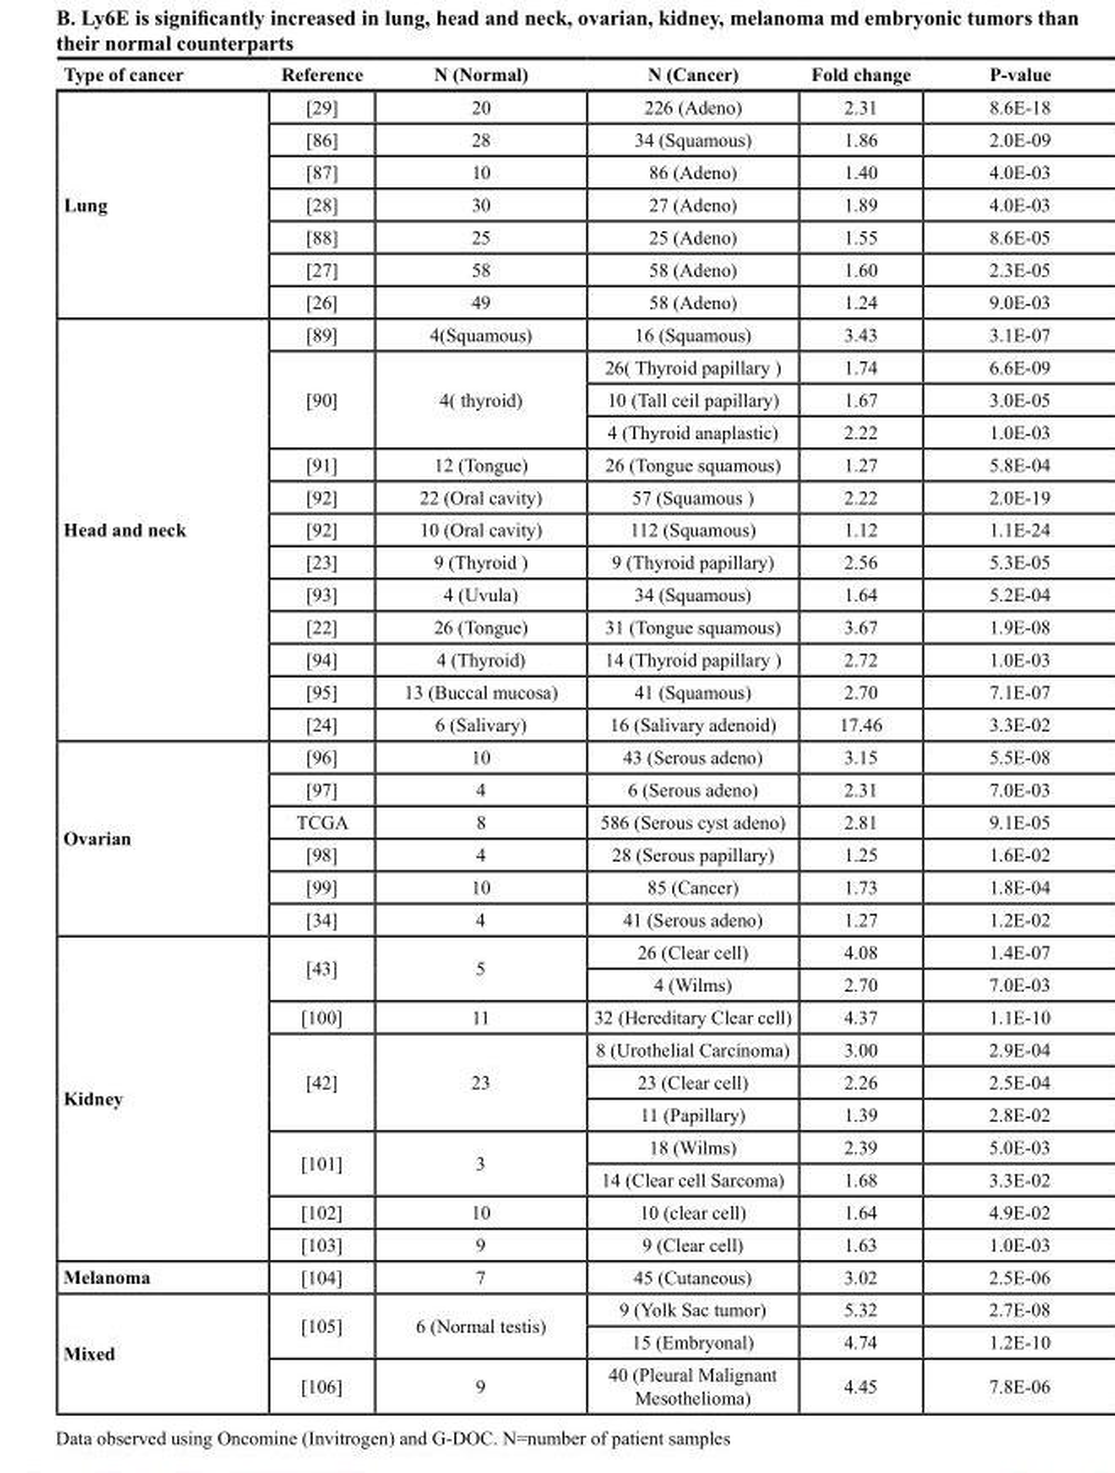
<table><thead><tr><td>Type of cancer</td><td>Reference</td><td>N (Normal)</td><td>N (Cancer)</td><td>Fold change</td><td>P-value</td></tr></thead><tbody><tr><td rowspan="7">Lung</td><td>[29]</td><td>20</td><td>226 (Adeno)</td><td>2.31</td><td>8.6E-18</td></tr><tr><td>[86]</td><td>28</td><td>34 (Squamous)</td><td>1.86</td><td>2.0E-09</td></tr><tr><td>[87]</td><td>10</td><td>86 (Adeno)</td><td>1.40</td><td>4.0E-03</td></tr><tr><td>[28]</td><td>30</td><td>27 (Adeno)</td><td>1.89</td><td>4.0E-03</td></tr><tr><td>[88]</td><td>25</td><td>25 (Adeno)</td><td>1.55</td><td>8.6E-05</td></tr><tr><td>[27]</td><td>58</td><td>58 (Adeno)</td><td>1.60</td><td>2.3E-05</td></tr><tr><td>[26]</td><td>49</td><td>58 (Adeno)</td><td>1.24</td><td>9.0E-03</td></tr><tr><td rowspan="13">Head and neck</td><td>[89]</td><td>4(Squamous)</td><td>16 (Squamous)</td><td>3.43</td><td>3.1E-07</td></tr><tr><td rowspan="3">[90]</td><td rowspan="3">4( thyroid)</td><td>26( Thyroid papillary )</td><td>1.74</td><td>6.6E-09</td></tr><tr><td>10 (Tall ceil papillary)</td><td>1.67</td><td>3.0E-05</td></tr><tr><td>4 (Thyroid anaplastic)</td><td>2.22</td><td>1.0E-03</td></tr><tr><td>[91]</td><td>12 (Tongue)</td><td>26 (Tongue squamous)</td><td>1.27</td><td>5.8E-04</td></tr><tr><td>[92]</td><td>22 (Oral cavity)</td><td>57 (Squamous )</td><td>2.22</td><td>2.0E-19</td></tr><tr><td>[92]</td><td>10 (Oral cavity)</td><td>112 (Squamous)</td><td>1.12</td><td>1.1E-24</td></tr><tr><td>[23]</td><td>9 (Thyroid )</td><td>9 (Thyroid papillary)</td><td>2.56</td><td>5.3E-05</td></tr><tr><td>[93]</td><td>4 (Uvula)</td><td>34 (Squamous)</td><td>1.64</td><td>5.2E-04</td></tr><tr><td>[22]</td><td>26 (Tongue)</td><td>31 (Tongue squamous)</td><td>3.67</td><td>1.9E-08</td></tr><tr><td>[94]</td><td>4 (Thyroid)</td><td>14 (Thyroid papillary )</td><td>2.72</td><td>1.0E-03</td></tr><tr><td>[95]</td><td>13 (Buccal mucosa)</td><td>41 (Squamous)</td><td>2.70</td><td>7.1E-07</td></tr><tr><td>[24]</td><td>6 (Salivary)</td><td>16 (Salivary adenoid)</td><td>17.46</td><td>3.3E-02</td></tr><tr><td rowspan="6">Ovarian</td><td>[96]</td><td>10</td><td>43 (Serous adeno)</td><td>3.15</td><td>5.5E-08</td></tr><tr><td>[97]</td><td>4</td><td>6 (Serous adeno)</td><td>2.31</td><td>7.0E-03</td></tr><tr><td>TCGA</td><td>8</td><td>586 (Serous cyst adeno)</td><td>2.81</td><td>9.1E-05</td></tr><tr><td>[98]</td><td>4</td><td>28 (Serous papillary)</td><td>1.25</td><td>1.6E-02</td></tr><tr><td>[99]</td><td>10</td><td>85 (Cancer)</td><td>1.73</td><td>1.8E-04</td></tr><tr><td>[34]</td><td>4</td><td>41 (Serous adeno)</td><td>1.27</td><td>1.2E-02</td></tr><tr><td rowspan="10">Kidney</td><td rowspan="2">[43]</td><td rowspan="2">5</td><td>26 (Clear cell)</td><td>4.08</td><td>1.4E-07</td></tr><tr><td>4 (Wilms)</td><td>2.70</td><td>7.0E-03</td></tr><tr><td>[100]</td><td>11</td><td>32 (Hereditary Clear cell)</td><td>4.37</td><td>1.1E-10</td></tr><tr><td rowspan="3">[42]</td><td rowspan="3">23</td><td>8 (Urothelial Carcinoma)</td><td>3.00</td><td>2.9E-04</td></tr><tr><td>23 (Clear cell)</td><td>2.26</td><td>2.5E-04</td></tr><tr><td>11 (Papillary)</td><td>1.39</td><td>2.8E-02</td></tr><tr><td rowspan="2">[101]</td><td rowspan="2">3</td><td>18 (Wilms)</td><td>2.39</td><td>5.0E-03</td></tr><tr><td>14 (Clear cell Sarcoma)</td><td>1.68</td><td>3.3E-02</td></tr><tr><td>[102]</td><td>10</td><td>10 (clear cell)</td><td>1.64</td><td>4.9E-02</td></tr><tr><td>[103]</td><td>9</td><td>9 (Clear cell)</td><td>1.63</td><td>1.0E-03</td></tr><tr><td>Melanoma</td><td>[104]</td><td>7</td><td>45 (Cutaneous)</td><td>3.02</td><td>2.5E-06</td></tr><tr><td rowspan="3">Mixed</td><td rowspan="2">[105]</td><td rowspan="2">6 (Normal testis)</td><td>9 (Yolk Sac tumor)</td><td>5.32</td><td>2.7E-08</td></tr><tr><td>15 (Embryonal)</td><td>4.74</td><td>1.2E-10</td></tr><tr><td>[106]</td><td>9</td><td>40 (Pleural Malignant Mesothelioma)</td><td>4.45</td><td>7.8E-06</td></tr></tbody></table>